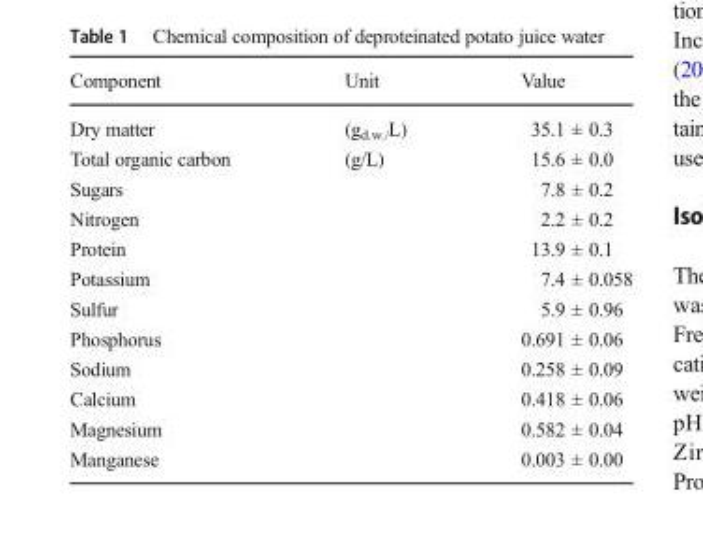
<table><thead><tr><td>Component</td><td>Unit</td><td>Value</td></tr></thead><tbody><tr><td>Dry matter</td><td>(g<sub>d.w./</sub>L)</td><td>35.1 ± 0.3</td></tr><tr><td>Total organic carbon</td><td rowspan="10">(g/L)</td><td>15.6 ± 0.0</td></tr><tr><td>Sugars</td><td>7.8 ± 0.2</td></tr><tr><td>Nitrogen</td><td>2.2 ± 0.2</td></tr><tr><td>Protein</td><td>13.9 ± 0.1</td></tr><tr><td>Potassium</td><td>7.4 ± 0.058</td></tr><tr><td>Sulfur</td><td>5.9 ± 0.96</td></tr><tr><td>Phosphorus</td><td>0.691 ± 0.06</td></tr><tr><td>Sodium</td><td>0.258 ± 0.09</td></tr><tr><td>Calcium</td><td>0.418 ± 0.06</td></tr><tr><td>Magnesium</td><td>0.582 ± 0.04</td></tr><tr><td>Manganese</td><td></td><td>0.003 ± 0.00</td></tr></tbody></table>